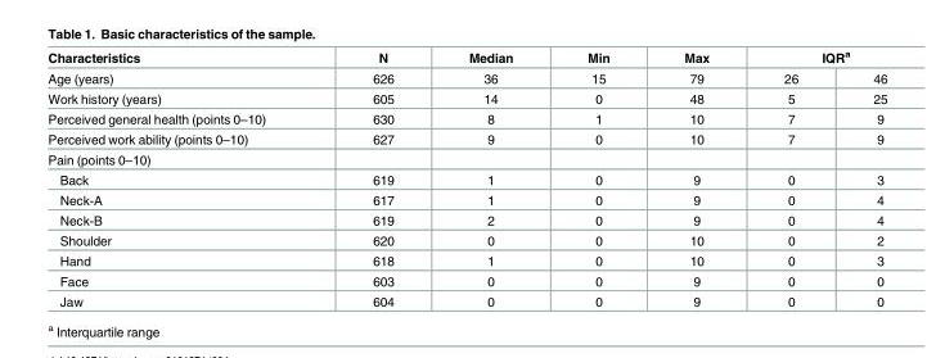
<table><thead><tr><td rowspan="2">Characteristics Age (years)</td><td rowspan="2">N 626</td><td rowspan="2">Median 36</td><td rowspan="2">Min 15</td><td rowspan="2">Max 79</td><td colspan="2">IQR<sup>a</sup></td></tr><tr><td>26</td><td>46</td></tr></thead><tbody><tr><td>Work history (years)</td><td>605</td><td>14</td><td>0</td><td>48</td><td>5</td><td>25</td></tr><tr><td>Perceived general health (points 0–10)</td><td>630</td><td>8</td><td>1</td><td>10</td><td>7</td><td>9</td></tr><tr><td>Perceived work ability (points 0–10)</td><td>627</td><td>9</td><td>0</td><td>10</td><td>7</td><td>9</td></tr><tr><td colspan="7">Pain (points 0–10)</td></tr><tr><td>Back</td><td>619</td><td>1</td><td>0</td><td>9</td><td>0</td><td>3</td></tr><tr><td>Neck-A</td><td>617</td><td>1</td><td>0</td><td>9</td><td>0</td><td>4</td></tr><tr><td>Neck-B</td><td>619</td><td>2</td><td>0</td><td>9</td><td>0</td><td>4</td></tr><tr><td>Shoulder</td><td>620</td><td>0</td><td>0</td><td>10</td><td>0</td><td>2</td></tr><tr><td>Hand</td><td>618</td><td>1</td><td>0</td><td>10</td><td>0</td><td>3</td></tr><tr><td>Face</td><td>603</td><td>0</td><td>0</td><td>9</td><td>0</td><td>0</td></tr><tr><td>Jaw</td><td>604</td><td>0</td><td>0</td><td>9</td><td>0</td><td>0</td></tr></tbody></table>